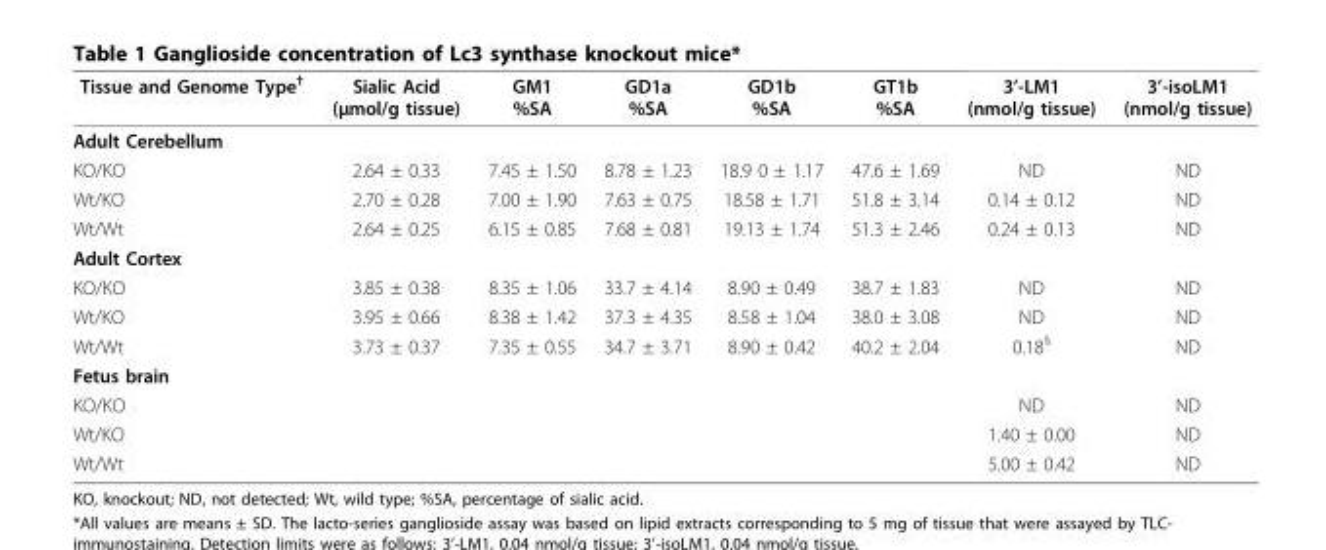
<table><thead><tr><td>Tissue and Genome Type<sup>†</sup></td><td>Sialic Acid (μmol/g tissue)</td><td>GM1 %SA</td><td>GD1a %SA</td><td>GD1b %SA</td><td>GT1b %SA</td><td>3’-LM1 (nmol/g tissue)</td><td>3’-isoLM1 (nmol/g tissue)</td></tr></thead><tbody><tr><td colspan="8">Adult Cerebellum</td></tr><tr><td>KO/KO</td><td>2.64 ± 0.33</td><td>7.45 ± 1.50</td><td>8.78 ± 1.23</td><td>18.9 0 ± 1.17</td><td>47.6 ± 1.69</td><td>ND</td><td>ND</td></tr><tr><td>Wt/KO</td><td>2.70 ± 0.28</td><td>7.00 ± 1.90</td><td>7.63 ± 0.75</td><td>18.58 ± 1.71</td><td>51.8 ± 3.14</td><td>0.14 ± 0.12</td><td>ND</td></tr><tr><td>Wt/Wt</td><td>2.64 ± 0.25</td><td>6.15 ± 0.85</td><td>7.68 ± 0.81</td><td>19.13 ± 1.74</td><td>51.3 ± 2.46</td><td>0.24 ± 0.13</td><td>ND</td></tr><tr><td colspan="8">Adult Cortex</td></tr><tr><td>KO/KO</td><td>3.85 ± 0.38</td><td>8.35 ± 1.06</td><td>33.7 ± 4.14</td><td>8.90 ± 0.49</td><td>38.7 ± 1.83</td><td>ND</td><td>ND</td></tr><tr><td>Wt/KO</td><td>3.95 ± 0.66</td><td>8.38 ± 1.42</td><td>37.3 ± 4.35</td><td>8.58 ± 1.04</td><td>38.0 ± 3.08</td><td>ND</td><td>ND</td></tr><tr><td>Wt/Wt</td><td>3.73 ± 0.37</td><td>7.35 ± 0.55</td><td>34.7 ± 3.71</td><td>8.90 ± 0.42</td><td>40.2 ± 2.04</td><td>0.18<sup>§</sup></td><td>ND</td></tr><tr><td colspan="8">Fetus brain</td></tr><tr><td>KO/KO</td><td></td><td></td><td></td><td></td><td></td><td>ND</td><td>ND</td></tr><tr><td>Wt/KO</td><td></td><td></td><td></td><td></td><td></td><td>1.40 ± 0.00</td><td>ND</td></tr><tr><td>Wt/Wt</td><td></td><td></td><td></td><td></td><td></td><td>5.00 ± 0.42</td><td>ND</td></tr></tbody></table>